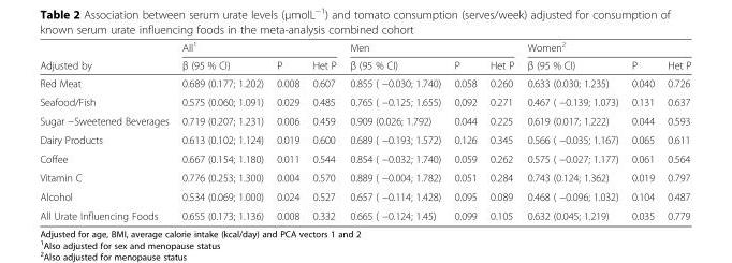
<table><thead><tr><td rowspan="2">Adjusted by</td><td colspan="3">All<sup>1</sup></td><td colspan="3">Men</td><td colspan="3">Women<sup>2</sup></td></tr><tr><td>β (95 % CI)</td><td>P</td><td>Het P</td><td>β (95 % CI)</td><td>P</td><td>Het P</td><td>β (95 % CI)</td><td>P</td><td>Het P</td></tr></thead><tbody><tr><td>Red Meat</td><td>0.689 (0.177; 1.202)</td><td>0.008</td><td>0.607</td><td>0.855 ( −0.030; 1.740)</td><td>0.058</td><td>0.260</td><td>0.633 (0.030; 1.235)</td><td>0.040</td><td>0.726</td></tr><tr><td>Seafood/Fish</td><td>0.575 (0.060; 1.091)</td><td>0.029</td><td>0.485</td><td>0.765 ( −0.125; 1.655)</td><td>0.092</td><td>0.271</td><td>0.467 ( −0.139; 1.073)</td><td>0.131</td><td>0.637</td></tr><tr><td>Sugar −Sweetened Beverages</td><td>0.719 (0.207; 1.231)</td><td>0.006</td><td>0.459</td><td>0.909 (0.026; 1.792)</td><td>0.044</td><td>0.225</td><td>0.619 (0.017; 1.222)</td><td>0.044</td><td>0.593</td></tr><tr><td>Dairy Products</td><td>0.613 (0.102; 1.124)</td><td>0.019</td><td>0.600</td><td>0.689 ( −0.193; 1.572)</td><td>0.126</td><td>0.345</td><td>0.566 ( −0.035; 1.167)</td><td>0.065</td><td>0.611</td></tr><tr><td>Coffee</td><td>0.667 (0.154; 1.180)</td><td>0.011</td><td>0.544</td><td>0.854 ( −0.032; 1.740)</td><td>0.059</td><td>0.262</td><td>0.575 ( −0.027; 1.177)</td><td>0.061</td><td>0.564</td></tr><tr><td>Vitamin C</td><td>0.776 (0.253; 1.300)</td><td>0.004</td><td>0.570</td><td>0.889 ( −0.004; 1.782)</td><td>0.051</td><td>0.284</td><td>0.743 (0.124; 1.362)</td><td>0.019</td><td>0.797</td></tr><tr><td>Alcohol</td><td>0.534 (0.069; 1.000)</td><td>0.024</td><td>0.527</td><td>0.657 ( −0.114; 1.428)</td><td>0.095</td><td>0.089</td><td>0.468 ( −0.096; 1.032)</td><td>0.104</td><td>0.487</td></tr><tr><td>All Urate Influencing Foods</td><td>0.655 (0.173; 1.136)</td><td>0.008</td><td>0.332</td><td>0.665 ( −0.124; 1.45)</td><td>0.099</td><td>0.105</td><td>0.632 (0.045; 1.219)</td><td>0.035</td><td>0.779</td></tr></tbody></table>